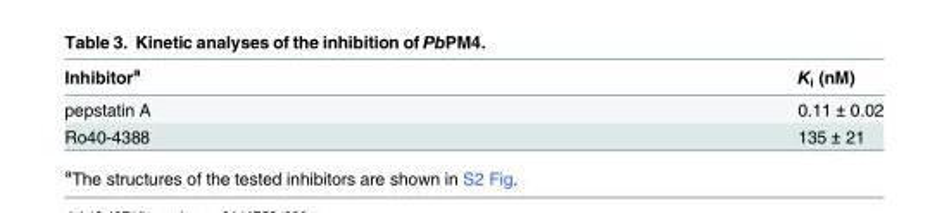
<table><thead><tr><td>Inhibitor<sup>a</sup></td><td>K<sub>i</sub> (nM)</td></tr></thead><tbody><tr><td>pepstatin A</td><td>0.11 ± 0.02</td></tr><tr><td>Ro40-4388</td><td>135 ± 21</td></tr></tbody></table>